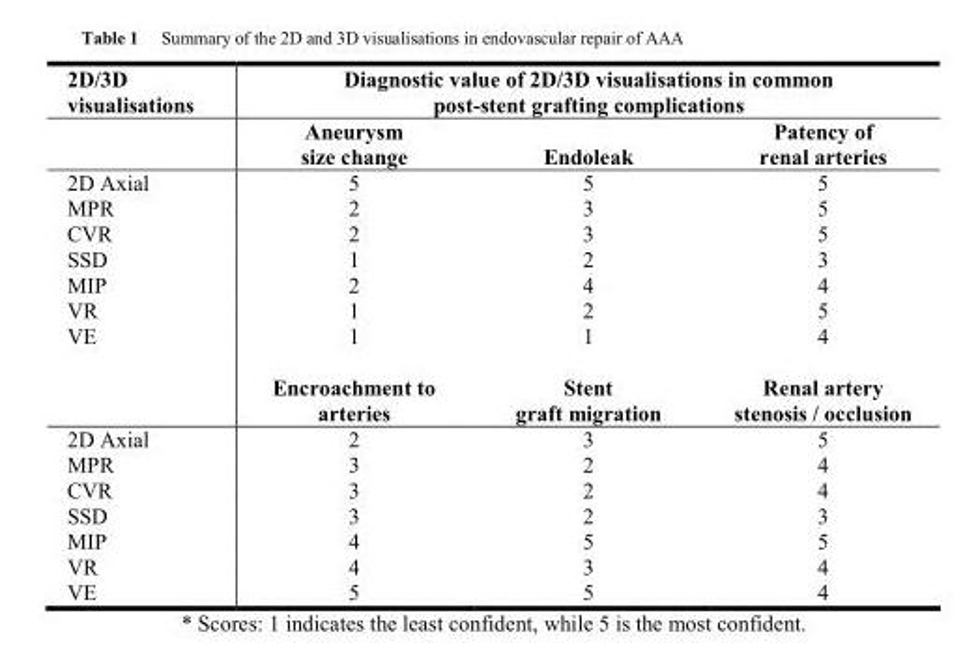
<table><thead><tr><td rowspan="2">2D/3D visualisations</td><td colspan="3">Diagnostic value of 2D/3D visualisations in common post-stent grafting complications</td></tr><tr><td>Aneurysm size change</td><td>Endoleak</td><td>Patency of renal arteries</td></tr></thead><tbody><tr><td>2D Axial</td><td>5</td><td>5</td><td>5</td></tr><tr><td>MPR</td><td>2</td><td>3</td><td>5</td></tr><tr><td>CVR</td><td>2</td><td>3</td><td>5</td></tr><tr><td>SSD</td><td>1</td><td>2</td><td>3</td></tr><tr><td>MIP</td><td>2</td><td>4</td><td>4</td></tr><tr><td>VR</td><td>1</td><td>2</td><td>5</td></tr><tr><td rowspan="2">VE</td><td>1</td><td>1</td><td>4</td></tr><tr><td>Encroachment to arteries</td><td>Stent graft migration</td><td>Renal artery stenosis / occlusion</td></tr><tr><td>2D Axial</td><td>2</td><td>3</td><td>5</td></tr><tr><td>MPR</td><td>3</td><td>2</td><td>4</td></tr><tr><td>CVR</td><td>3</td><td>2</td><td>4</td></tr><tr><td>SSD</td><td>3</td><td>2</td><td>3</td></tr><tr><td>MIP</td><td>4</td><td>5</td><td>5</td></tr><tr><td>VR</td><td>4</td><td>3</td><td>4</td></tr><tr><td>VE</td><td>5</td><td>5</td><td>4</td></tr></tbody></table>